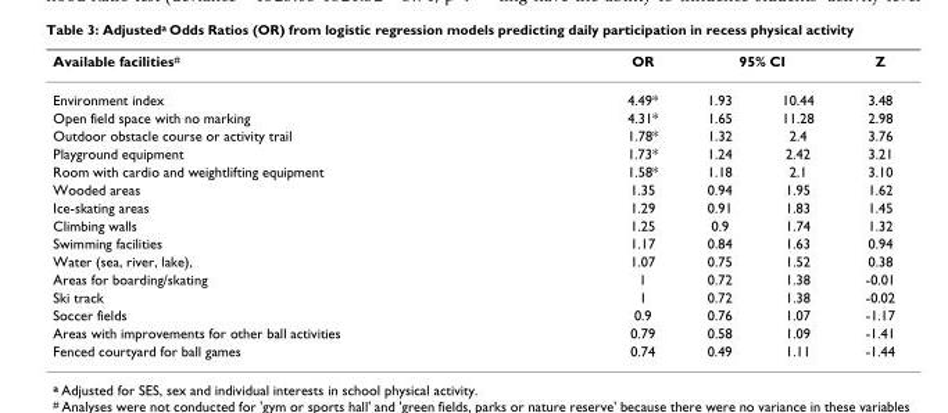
<table><thead><tr><td rowspan="2">Available facilities<sup>#</sup> Environment index</td><td rowspan="2">OR 4.49*</td><td colspan="2">95% CI</td><td rowspan="2">Z 3.48</td></tr><tr><td>1.93</td><td>10.44</td></tr></thead><tbody><tr><td>Open field space with no marking</td><td>4.31*</td><td>1.65</td><td>11.28</td><td>2.98</td></tr><tr><td>Outdoor obstacle course or activity trail</td><td>1.78*</td><td>1.32</td><td>2.4</td><td>3.76</td></tr><tr><td>Playground equipment</td><td>1.73*</td><td>1.24</td><td>2.42</td><td>3.21</td></tr><tr><td>Room with cardio and weightlifting equipment</td><td>1.58*</td><td>1.18</td><td>2.1</td><td>3.10</td></tr><tr><td>Wooded areas</td><td>1.35</td><td>0.94</td><td>1.95</td><td>1.62</td></tr><tr><td>Ice-skating areas</td><td>1.29</td><td>0.91</td><td>1.83</td><td>1.45</td></tr><tr><td>Climbing walls</td><td>1.25</td><td>0.9</td><td>1.74</td><td>1.32</td></tr><tr><td>Swimming facilities</td><td>1.17</td><td>0.84</td><td>1.63</td><td>0.94</td></tr><tr><td>Water (sea, river, lake),</td><td>1.07</td><td>0.75</td><td>1.52</td><td>0.38</td></tr><tr><td>Areas for boarding/skating</td><td>1</td><td>0.72</td><td>1.38</td><td>-0.01</td></tr><tr><td>Ski track</td><td>1</td><td>0.72</td><td>1.38</td><td>-0.02</td></tr><tr><td>Soccer fields</td><td>0.9</td><td>0.76</td><td>1.07</td><td>-1.17</td></tr><tr><td>Areas with improvements for other ball activities</td><td>0.79</td><td>0.58</td><td>1.09</td><td>-1.41</td></tr><tr><td>Fenced courtyard for ball games</td><td>0.74</td><td>0.49</td><td>1.11</td><td>-1.44</td></tr></tbody></table>